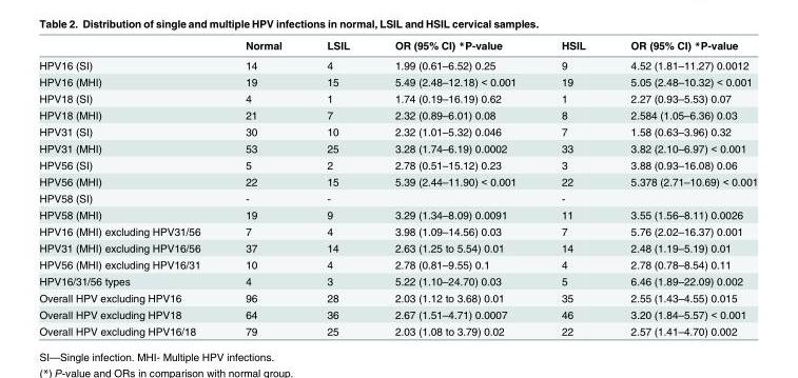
<table><thead><tr><td></td><td>Normal</td><td>LSIL</td><td>OR (95% CI) *P-value</td><td>HSIL</td><td>OR (95% CI) *P-value</td></tr></thead><tbody><tr><td>HPV16 (SI)</td><td>14</td><td>4</td><td>1.99 (0.61–6.52) 0.25</td><td>9</td><td>4.52 (1.81–11.27) 0.0012</td></tr><tr><td>HPV16 (MHI)</td><td>19</td><td>15</td><td>5.49 (2.48–12.18) &lt; 0.001</td><td>19</td><td>5.05 (2.48–10.32) &lt; 0.001</td></tr><tr><td>HPV18 (SI)</td><td>4</td><td>1</td><td>1.74 (0.19–16.19) 0.62</td><td>1</td><td>2.27 (0.93–5.53) 0.07</td></tr><tr><td>HPV18 (MHI)</td><td>21</td><td>7</td><td>2.32 (0.89–6.01) 0.08</td><td>8</td><td>2.584 (1.05–6.36) 0.03</td></tr><tr><td>HPV31 (SI)</td><td>30</td><td>10</td><td>2.32 (1.01–5.32) 0.046</td><td>7</td><td>1.58 (0.63–3.96) 0.32</td></tr><tr><td>HPV31 (MHI)</td><td>53</td><td>25</td><td>3.28 (1.74–6.19) 0.0002</td><td>33</td><td>3.82 (2.10–6.97) &lt; 0.001</td></tr><tr><td>HPV56 (SI)</td><td>5</td><td>2</td><td>2.78 (0.51–15.12) 0.23</td><td>3</td><td>3.88 (0.93–16.08) 0.06</td></tr><tr><td>HPV56 (MHI)</td><td>22</td><td>15</td><td>5.39 (2.44–11.90) &lt; 0.001</td><td>22</td><td>5.378 (2.71–10.69) &lt; 0.001</td></tr><tr><td>HPV58 (SI)</td><td>-</td><td>-</td><td></td><td>-</td><td></td></tr><tr><td>HPV58 (MHI)</td><td>19</td><td>9</td><td>3.29 (1.34–8.09) 0.0091</td><td>11</td><td>3.55 (1.56–8.11) 0.0026</td></tr><tr><td>HPV16 (MHI) excluding HPV31/56</td><td>7</td><td>4</td><td>3.98 (1.09–14.56) 0.03</td><td>7</td><td>5.76 (2.02–16.37) 0.001</td></tr><tr><td>HPV31 (MHI) excluding HPV16/56</td><td>37</td><td>14</td><td>2.63 (1.25 to 5.54) 0.01</td><td>14</td><td>2.48 (1.19–5.19) 0.01</td></tr><tr><td>HPV56 (MHI) excluding HPV16/31</td><td>10</td><td>4</td><td>2.78 (0.81–9.55) 0.1</td><td>4</td><td>2.78 (0.78–8.54) 0.11</td></tr><tr><td>HPV16/31/56 types</td><td>4</td><td>3</td><td>5.22 (1.10–24.70) 0.03</td><td>5</td><td>6.46 (1.89–22.09) 0.002</td></tr><tr><td>Overall HPV excluding HPV16</td><td>96</td><td>28</td><td>2.03 (1.12 to 3.68) 0.01</td><td>35</td><td>2.55 (1.43–4.55) 0.015</td></tr><tr><td>Overall HPV excluding HPV18</td><td>64</td><td>36</td><td>2.67 (1.51–4.71) 0.0007</td><td>46</td><td>3.20 (1.84–5.57) &lt; 0.001</td></tr><tr><td>Overall HPV excluding HPV16/18</td><td>79</td><td>25</td><td>2.03 (1.08 to 3.79) 0.02</td><td>22</td><td>2.57 (1.41–4.70) 0.002</td></tr></tbody></table>